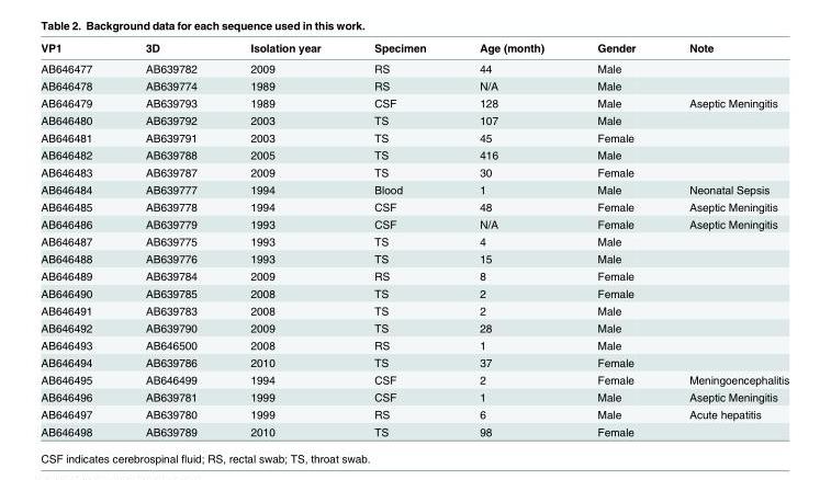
<table><thead><tr><td>VP1</td><td>3D</td><td>Isolation year</td><td>Specimen</td><td>Age (month)</td><td>Gender</td><td>Note</td></tr></thead><tbody><tr><td>AB646477</td><td>AB639782</td><td>2009</td><td>RS</td><td>44</td><td>Male</td><td></td></tr><tr><td>AB646478</td><td>AB639774</td><td>1989</td><td>RS</td><td>N/A</td><td>Male</td><td></td></tr><tr><td>AB646479</td><td>AB639793</td><td>1989</td><td>CSF</td><td>128</td><td>Male</td><td>Aseptic Meningitis</td></tr><tr><td>AB646480</td><td>AB639792</td><td>2003</td><td>TS</td><td>107</td><td>Male</td><td></td></tr><tr><td>AB646481</td><td>AB639791</td><td>2003</td><td>TS</td><td>45</td><td>Female</td><td></td></tr><tr><td>AB646482</td><td>AB639788</td><td>2005</td><td>TS</td><td>416</td><td>Male</td><td></td></tr><tr><td>AB646483</td><td>AB639787</td><td>2009</td><td>TS</td><td>30</td><td>Female</td><td></td></tr><tr><td>AB646484</td><td>AB639777</td><td>1994</td><td>Blood</td><td>1</td><td>Male</td><td>Neonatal Sepsis</td></tr><tr><td>AB646485</td><td>AB639778</td><td>1994</td><td>CSF</td><td>48</td><td>Female</td><td>Aseptic Meningitis</td></tr><tr><td>AB646486</td><td>AB639779</td><td>1993</td><td>CSF</td><td>N/A</td><td>Female</td><td>Aseptic Meningitis</td></tr><tr><td>AB646487</td><td>AB639775</td><td>1993</td><td>TS</td><td>4</td><td>Male</td><td></td></tr><tr><td>AB646488</td><td>AB639776</td><td>1993</td><td>TS</td><td>15</td><td>Male</td><td></td></tr><tr><td>AB646489</td><td>AB639784</td><td>2009</td><td>RS</td><td>8</td><td>Female</td><td></td></tr><tr><td>AB646490</td><td>AB639785</td><td>2008</td><td>TS</td><td>2</td><td>Female</td><td></td></tr><tr><td>AB646491</td><td>AB639783</td><td>2008</td><td>TS</td><td>2</td><td>Male</td><td></td></tr><tr><td>AB646492</td><td>AB639790</td><td>2009</td><td>TS</td><td>28</td><td>Male</td><td></td></tr><tr><td>AB646493</td><td>AB646500</td><td>2008</td><td>RS</td><td>1</td><td>Male</td><td></td></tr><tr><td>AB646494</td><td>AB639786</td><td>2010</td><td>TS</td><td>37</td><td>Female</td><td></td></tr><tr><td>AB646495</td><td>AB646499</td><td>1994</td><td>CSF</td><td>2</td><td>Female</td><td>Meningoencephalitis</td></tr><tr><td>AB646496</td><td>AB639781</td><td>1999</td><td>CSF</td><td>1</td><td>Male</td><td>Aseptic Meningitis</td></tr><tr><td>AB646497</td><td>AB639780</td><td>1999</td><td>RS</td><td>6</td><td>Male</td><td>Acute hepatitis</td></tr><tr><td>AB646498</td><td>AB639789</td><td>2010</td><td>TS</td><td>98</td><td>Female</td><td></td></tr></tbody></table>